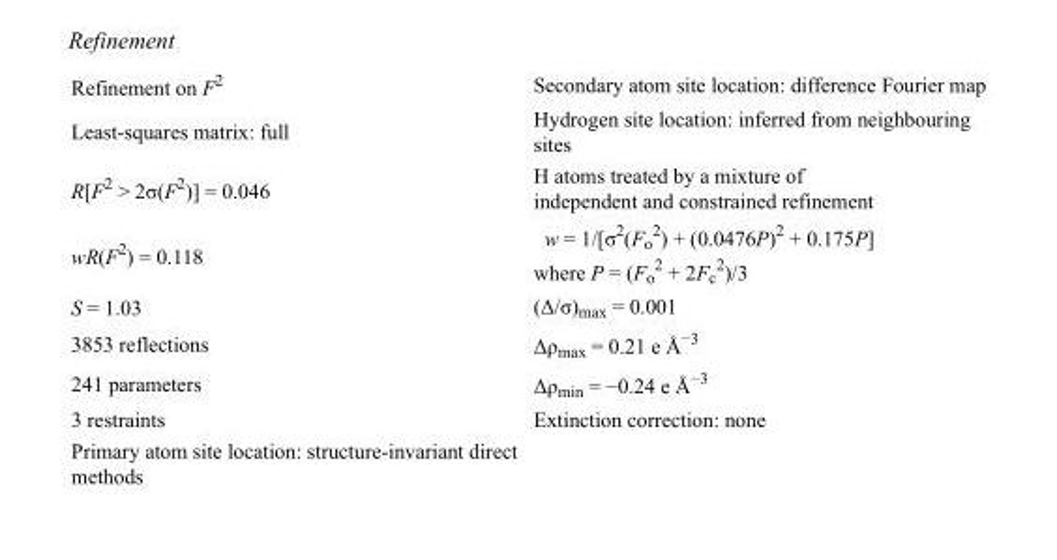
<table><tbody><tr><td>Refinement on F<sup>2</sup></td><td>Secondary atom site location: difference Fourier map</td></tr><tr><td>Least-squares matrix: full</td><td>Hydrogen site location: inferred from neighbouring sites</td></tr><tr><td>R[F<sup>2</sup> &gt; 2σ(F<sup>2</sup>)] = 0.046</td><td>H atoms treated by a mixture of independent and constrained refinement</td></tr><tr><td>wR(F<sup>2</sup>) = 0.118</td><td>w = 1/[σ<sup>2</sup>(F<sub>o</sub> <sup>2</sup>) + (0.0476P)<sup>2</sup> + 0.175P] where P = (F<sub>o</sub> <sup>2</sup> + 2F<sub>c</sub> <sup>2</sup>)/3</td></tr><tr><td>S = 1.03</td><td>(Δ/σ)<sub>max</sub> = 0.001</td></tr><tr><td>3853 reflections</td><td>Δρ<sub>max</sub> = 0.21 e Å<sup>−3</sup></td></tr><tr><td>241 parameters</td><td>Δρ<sub>min</sub> = −0.24 e Å<sup>−3</sup></td></tr><tr><td>3 restraints</td><td>Extinction correction: none</td></tr><tr><td>Primary atom site location: structure-invariant direct methods</td><td></td></tr></tbody></table>